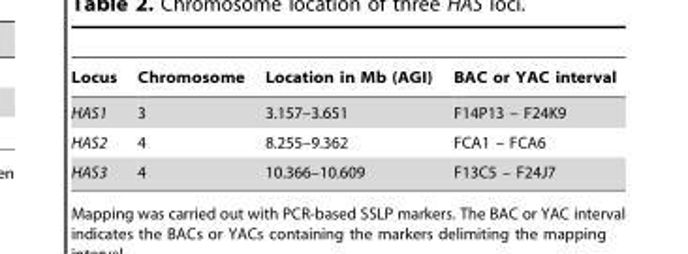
<table><thead><tr><td>Locus</td><td>Chromosome</td><td>Location in Mb (AGI)</td><td>BAC or YAC interval</td></tr></thead><tbody><tr><td>HAS1</td><td>3</td><td>3.157–3.651</td><td>F14P13 – F24K9</td></tr><tr><td>HAS2</td><td>4</td><td>8.255–9.362</td><td>FCA1 – FCA6</td></tr><tr><td>HAS3</td><td>4</td><td>10.366–10.609</td><td>F13C5 – F24J7</td></tr></tbody></table>